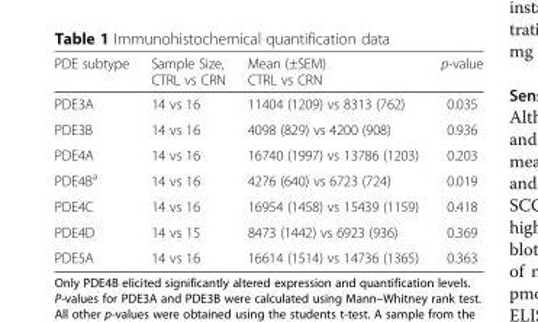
<table><thead><tr><td>PDE subtype</td><td>Sample Size, CTRL vs CRN</td><td>Mean (±SEM) CTRL vs CRN</td><td>p-value</td></tr></thead><tbody><tr><td>PDE3A</td><td>14 vs 16</td><td>11404 (1209) vs 8313 (762)</td><td>0.035</td></tr><tr><td>PDE3B</td><td>14 vs 16</td><td>4098 (829) vs 4200 (908)</td><td>0.936</td></tr><tr><td>PDE4A</td><td>14 vs 16</td><td>16740 (1997) vs 13786 (1203)</td><td>0.203</td></tr><tr><td>PDE4B<sup>a</sup></td><td>14 vs 16</td><td>4276 (640) vs 6723 (724)</td><td>0.019</td></tr><tr><td>PDE4C</td><td>14 vs 16</td><td>16954 (1458) vs 15439 (1159)</td><td>0.418</td></tr><tr><td>PDE4D</td><td>14 vs 15</td><td>8473 (1442) vs 6923 (936)</td><td>0.369</td></tr><tr><td>PDE5A</td><td>14 vs 16</td><td>16614 (1514) vs 14736 (1365)</td><td>0.363</td></tr></tbody></table>